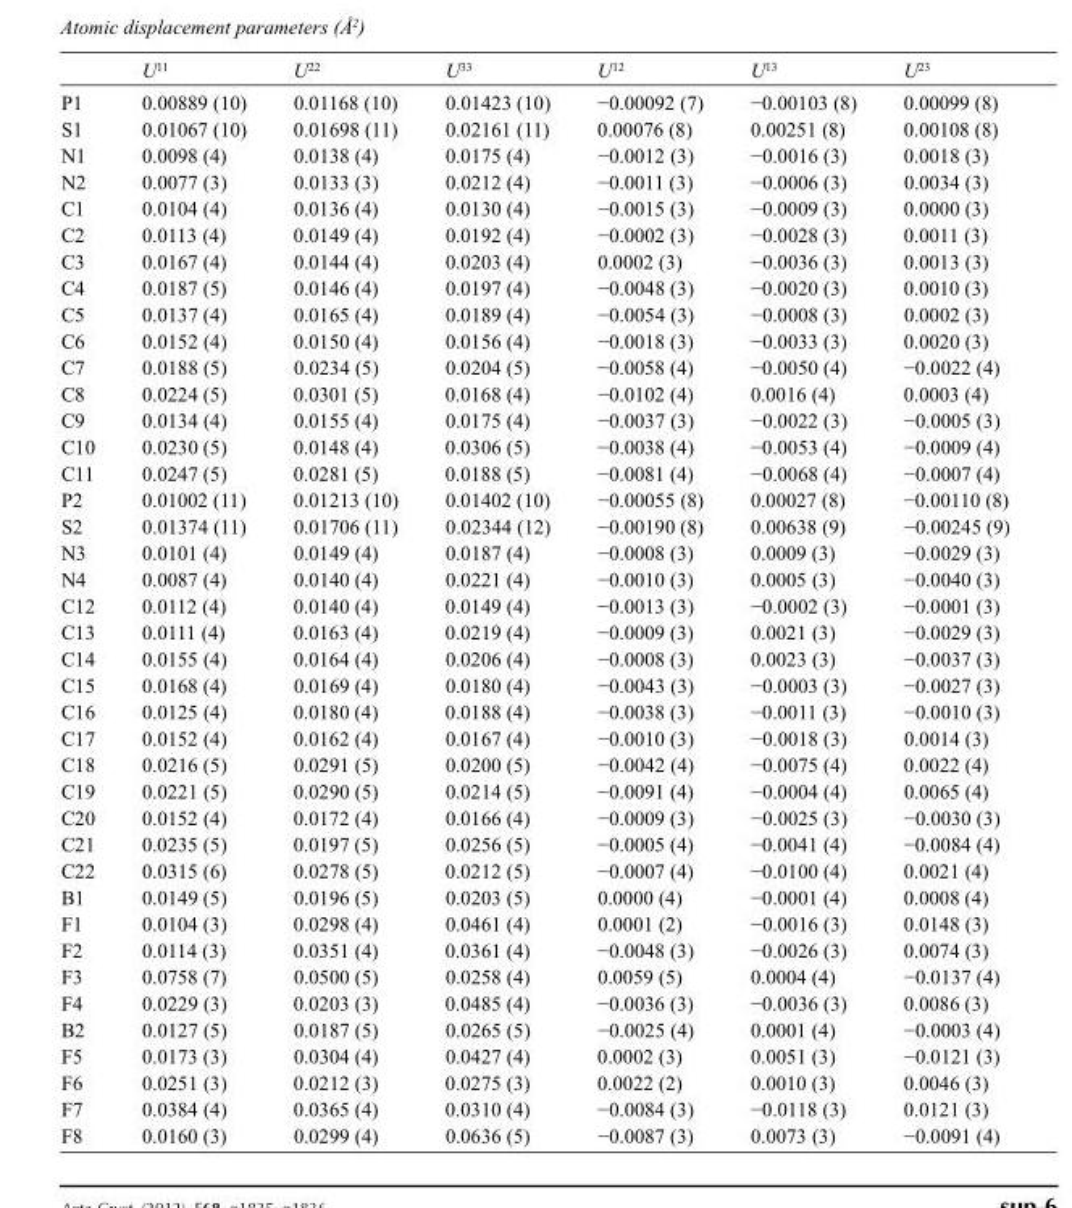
<table><thead><tr><td></td><td>U<sup>11</sup></td><td>U<sup>22</sup></td><td>U<sup>33</sup></td><td>U<sup>12</sup></td><td>U<sup>13</sup></td><td>U<sup>23</sup></td></tr></thead><tbody><tr><td>P1</td><td>0.00889 (10)</td><td>0.01168 (10)</td><td>0.01423 (10)</td><td>−0.00092 (7)</td><td>−0.00103 (8)</td><td>0.00099 (8)</td></tr><tr><td>S1</td><td>0.01067 (10)</td><td>0.01698 (11)</td><td>0.02161 (11)</td><td>0.00076 (8)</td><td>0.00251 (8)</td><td>0.00108 (8)</td></tr><tr><td>N1</td><td>0.0098 (4)</td><td>0.0138 (4)</td><td>0.0175 (4)</td><td>−0.0012 (3)</td><td>−0.0016 (3)</td><td>0.0018 (3)</td></tr><tr><td>N2</td><td>0.0077 (3)</td><td>0.0133 (3)</td><td>0.0212 (4)</td><td>−0.0011 (3)</td><td>−0.0006 (3)</td><td>0.0034 (3)</td></tr><tr><td>C1</td><td>0.0104 (4)</td><td>0.0136 (4)</td><td>0.0130 (4)</td><td>−0.0015 (3)</td><td>−0.0009 (3)</td><td>0.0000 (3)</td></tr><tr><td>C2</td><td>0.0113 (4)</td><td>0.0149 (4)</td><td>0.0192 (4)</td><td>−0.0002 (3)</td><td>−0.0028 (3)</td><td>0.0011 (3)</td></tr><tr><td>C3</td><td>0.0167 (4)</td><td>0.0144 (4)</td><td>0.0203 (4)</td><td>0.0002 (3)</td><td>−0.0036 (3)</td><td>0.0013 (3)</td></tr><tr><td>C4</td><td>0.0187 (5)</td><td>0.0146 (4)</td><td>0.0197 (4)</td><td>−0.0048 (3)</td><td>−0.0020 (3)</td><td>0.0010 (3)</td></tr><tr><td>C5</td><td>0.0137 (4)</td><td>0.0165 (4)</td><td>0.0189 (4)</td><td>−0.0054 (3)</td><td>−0.0008 (3)</td><td>0.0002 (3)</td></tr><tr><td>C6</td><td>0.0152 (4)</td><td>0.0150 (4)</td><td>0.0156 (4)</td><td>−0.0018 (3)</td><td>−0.0033 (3)</td><td>0.0020 (3)</td></tr><tr><td>C7</td><td>0.0188 (5)</td><td>0.0234 (5)</td><td>0.0204 (5)</td><td>−0.0058 (4)</td><td>−0.0050 (4)</td><td>−0.0022 (4)</td></tr><tr><td>C8</td><td>0.0224 (5)</td><td>0.0301 (5)</td><td>0.0168 (4)</td><td>−0.0102 (4)</td><td>0.0016 (4)</td><td>0.0003 (4)</td></tr><tr><td>C9</td><td>0.0134 (4)</td><td>0.0155 (4)</td><td>0.0175 (4)</td><td>−0.0037 (3)</td><td>−0.0022 (3)</td><td>−0.0005 (3)</td></tr><tr><td>C10</td><td>0.0230 (5)</td><td>0.0148 (4)</td><td>0.0306 (5)</td><td>−0.0038 (4)</td><td>−0.0053 (4)</td><td>−0.0009 (4)</td></tr><tr><td>C11</td><td>0.0247 (5)</td><td>0.0281 (5)</td><td>0.0188 (5)</td><td>−0.0081 (4)</td><td>−0.0068 (4)</td><td>−0.0007 (4)</td></tr><tr><td>P2</td><td>0.01002 (11)</td><td>0.01213 (10)</td><td>0.01402 (10)</td><td>−0.00055 (8)</td><td>0.00027 (8)</td><td>−0.00110 (8)</td></tr><tr><td>S2</td><td>0.01374 (11)</td><td>0.01706 (11)</td><td>0.02344 (12)</td><td>−0.00190 (8)</td><td>0.00638 (9)</td><td>−0.00245 (9)</td></tr><tr><td>N3</td><td>0.0101 (4)</td><td>0.0149 (4)</td><td>0.0187 (4)</td><td>−0.0008 (3)</td><td>0.0009 (3)</td><td>−0.0029 (3)</td></tr><tr><td>N4</td><td>0.0087 (4)</td><td>0.0140 (4)</td><td>0.0221 (4)</td><td>−0.0010 (3)</td><td>0.0005 (3)</td><td>−0.0040 (3)</td></tr><tr><td>C12</td><td>0.0112 (4)</td><td>0.0140 (4)</td><td>0.0149 (4)</td><td>−0.0013 (3)</td><td>−0.0002 (3)</td><td>−0.0001 (3)</td></tr><tr><td>C13</td><td>0.0111 (4)</td><td>0.0163 (4)</td><td>0.0219 (4)</td><td>−0.0009 (3)</td><td>0.0021 (3)</td><td>−0.0029 (3)</td></tr><tr><td>C14</td><td>0.0155 (4)</td><td>0.0164 (4)</td><td>0.0206 (4)</td><td>−0.0008 (3)</td><td>0.0023 (3)</td><td>−0.0037 (3)</td></tr><tr><td>C15</td><td>0.0168 (4)</td><td>0.0169 (4)</td><td>0.0180 (4)</td><td>−0.0043 (3)</td><td>−0.0003 (3)</td><td>−0.0027 (3)</td></tr><tr><td>C16</td><td>0.0125 (4)</td><td>0.0180 (4)</td><td>0.0188 (4)</td><td>−0.0038 (3)</td><td>−0.0011 (3)</td><td>−0.0010 (3)</td></tr><tr><td>C17</td><td>0.0152 (4)</td><td>0.0162 (4)</td><td>0.0167 (4)</td><td>−0.0010 (3)</td><td>−0.0018 (3)</td><td>0.0014 (3)</td></tr><tr><td>C18</td><td>0.0216 (5)</td><td>0.0291 (5)</td><td>0.0200 (5)</td><td>−0.0042 (4)</td><td>−0.0075 (4)</td><td>0.0022 (4)</td></tr><tr><td>C19</td><td>0.0221 (5)</td><td>0.0290 (5)</td><td>0.0214 (5)</td><td>−0.0091 (4)</td><td>−0.0004 (4)</td><td>0.0065 (4)</td></tr><tr><td>C20</td><td>0.0152 (4)</td><td>0.0172 (4)</td><td>0.0166 (4)</td><td>−0.0009 (3)</td><td>−0.0025 (3)</td><td>−0.0030 (3)</td></tr><tr><td>C21</td><td>0.0235 (5)</td><td>0.0197 (5)</td><td>0.0256 (5)</td><td>−0.0005 (4)</td><td>−0.0041 (4)</td><td>−0.0084 (4)</td></tr><tr><td>C22</td><td>0.0315 (6)</td><td>0.0278 (5)</td><td>0.0212 (5)</td><td>−0.0007 (4)</td><td>−0.0100 (4)</td><td>0.0021 (4)</td></tr><tr><td>B1</td><td>0.0149 (5)</td><td>0.0196 (5)</td><td>0.0203 (5)</td><td>0.0000 (4)</td><td>−0.0001 (4)</td><td>0.0008 (4)</td></tr><tr><td>F1</td><td>0.0104 (3)</td><td>0.0298 (4)</td><td>0.0461 (4)</td><td>0.0001 (2)</td><td>−0.0016 (3)</td><td>0.0148 (3)</td></tr><tr><td>F2</td><td>0.0114 (3)</td><td>0.0351 (4)</td><td>0.0361 (4)</td><td>−0.0048 (3)</td><td>−0.0026 (3)</td><td>0.0074 (3)</td></tr><tr><td>F3</td><td>0.0758 (7)</td><td>0.0500 (5)</td><td>0.0258 (4)</td><td>0.0059 (5)</td><td>0.0004 (4)</td><td>−0.0137 (4)</td></tr><tr><td>F4</td><td>0.0229 (3)</td><td>0.0203 (3)</td><td>0.0485 (4)</td><td>−0.0036 (3)</td><td>−0.0036 (3)</td><td>0.0086 (3)</td></tr><tr><td>B2</td><td>0.0127 (5)</td><td>0.0187 (5)</td><td>0.0265 (5)</td><td>−0.0025 (4)</td><td>0.0001 (4)</td><td>−0.0003 (4)</td></tr><tr><td>F5</td><td>0.0173 (3)</td><td>0.0304 (4)</td><td>0.0427 (4)</td><td>0.0002 (3)</td><td>0.0051 (3)</td><td>−0.0121 (3)</td></tr><tr><td>F6</td><td>0.0251 (3)</td><td>0.0212 (3)</td><td>0.0275 (3)</td><td>0.0022 (2)</td><td>0.0010 (3)</td><td>0.0046 (3)</td></tr><tr><td>F7</td><td>0.0384 (4)</td><td>0.0365 (4)</td><td>0.0310 (4)</td><td>−0.0084 (3)</td><td>−0.0118 (3)</td><td>0.0121 (3)</td></tr><tr><td>F8</td><td>0.0160 (3)</td><td>0.0299 (4)</td><td>0.0636 (5)</td><td>−0.0087 (3)</td><td>0.0073 (3)</td><td>−0.0091 (4)</td></tr></tbody></table>